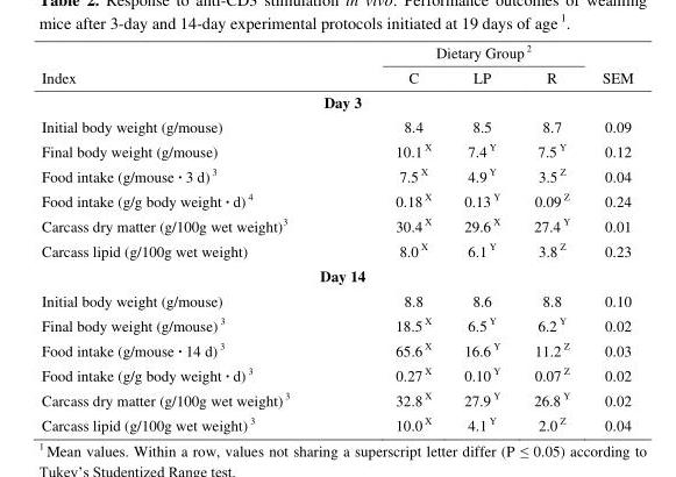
<table><thead><tr><td rowspan="2">Index</td><td colspan="3">Dietary Group 2</td><td rowspan="2">SEM</td></tr><tr><td>C</td><td>LP</td><td>R</td></tr></thead><tbody><tr><td colspan="5">Day 3</td></tr><tr><td>Initial body weight (g/mouse)</td><td>8.4</td><td>8.5</td><td>8.7</td><td>0.09</td></tr><tr><td>Final body weight (g/mouse)</td><td>10.1 <sup>X</sup></td><td>7.4 <sup>Y</sup></td><td>7.5 <sup>Y</sup></td><td>0.12</td></tr><tr><td>Food intake (g/mouse · 3 d) 3</td><td>7.5 <sup>X</sup></td><td>4.9 <sup>Y</sup></td><td>3.5 <sup>Z</sup></td><td>0.04</td></tr><tr><td>Food intake (g/g body weight · d) 4</td><td>0.18 <sup>X</sup></td><td>0.13 <sup>Y</sup></td><td>0.09 <sup>Z</sup></td><td>0.24</td></tr><tr><td>Carcass dry matter (g/100g wet weight)<sup>3</sup></td><td>30.4 <sup>X</sup></td><td>29.6 <sup>X</sup></td><td>27.4 <sup>Y</sup></td><td>0.01</td></tr><tr><td>Carcass lipid (g/100g wet weight)</td><td>8.0 <sup>X</sup></td><td>6.1 <sup>Y</sup></td><td>3.8 <sup>Z</sup></td><td>0.23</td></tr><tr><td colspan="5">Day 14</td></tr><tr><td>Initial body weight (g/mouse)</td><td>8.8</td><td>8.6</td><td>8.8</td><td>0.10</td></tr><tr><td>Final body weight (g/mouse) 3</td><td>18.5 <sup>X</sup></td><td>6.5 <sup>Y</sup></td><td>6.2 <sup>Y</sup></td><td>0.02</td></tr><tr><td>Food intake (g/mouse · 14 d) 3</td><td>65.6 <sup>X</sup></td><td>16.6 <sup>Y</sup></td><td>11.2 <sup>Z</sup></td><td>0.03</td></tr><tr><td>Food intake (g/g body weight · d) 3</td><td>0.27 <sup>X</sup></td><td>0.10 <sup>Y</sup></td><td>0.07 <sup>Z</sup></td><td>0.02</td></tr><tr><td>Carcass dry matter (g/100g wet weight) 3</td><td>32.8 <sup>X</sup></td><td>27.9 <sup>Y</sup></td><td>26.8 <sup>Y</sup></td><td>0.02</td></tr><tr><td>Carcass lipid (g/100g wet weight) 3</td><td>10.0 <sup>X</sup></td><td>4.1 <sup>Y</sup></td><td>2.0 <sup>Z</sup></td><td>0.04</td></tr></tbody></table>